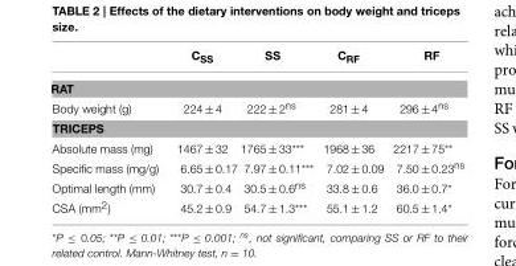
<table><thead><tr><td></td><td>C<sub>SS</sub></td><td>SS</td><td>C<sub>RF</sub></td><td>RF</td></tr></thead><tbody><tr><td colspan="5">RAT</td></tr><tr><td>Body weight (g)</td><td>224 ± 4</td><td>222 ± 2<sup>ns</sup></td><td>281 ± 4</td><td>296 ± 4<sup>ns</sup></td></tr><tr><td colspan="5">TRICEPS</td></tr><tr><td>Absolute mass (mg)</td><td>1467 ± 32</td><td>1765 ± 33***</td><td>1968 ± 36</td><td>2217 ± 75**</td></tr><tr><td>Specific mass (mg/g)</td><td>6.65 ± 0.17</td><td>7.97 ± 0.11***</td><td>7.02 ± 0.09</td><td>7.50 ± 0.23<sup>ns</sup></td></tr><tr><td>Optimal length (mm)</td><td>30.7 ± 0.4</td><td>30.5 ± 0.6<sup>ns</sup></td><td>33.8 ± 0.6</td><td>36.0 ± 0.7*</td></tr><tr><td>CSA (mm<sup>2</sup>)</td><td>45.2 ± 0.9</td><td>54.7 ± 1.3***</td><td>55.1 ± 1.2</td><td>60.5 ± 1.4*</td></tr></tbody></table>